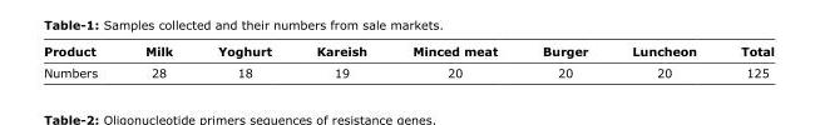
<table><thead><tr><td>Product</td><td>Milk</td><td>Yoghurt</td><td>Kareish</td><td>Minced meat</td><td>Burger</td><td>Luncheon</td><td>Total</td></tr></thead><tbody><tr><td>Numbers</td><td>28</td><td>18</td><td>19</td><td>20</td><td>20</td><td>20</td><td>125</td></tr></tbody></table>